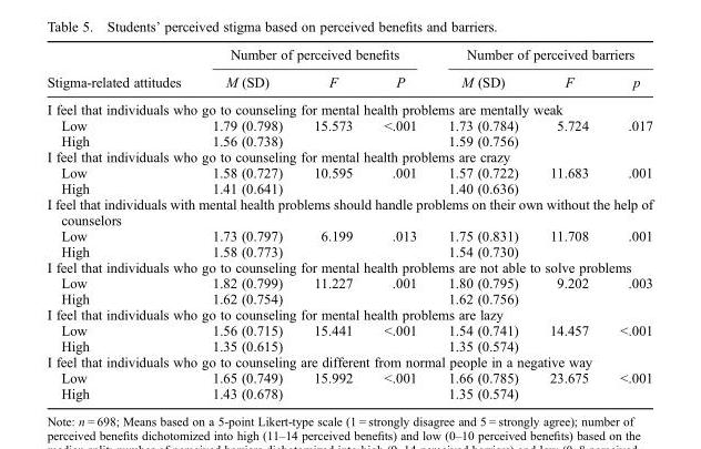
<table><thead><tr><td rowspan="2">Stigma-related attitudes</td><td colspan="3">Number of perceived benefits</td><td colspan="3">Number of perceived barriers</td></tr><tr><td>M (SD)</td><td>F</td><td>P</td><td>M (SD)</td><td>F</td><td>p</td></tr></thead><tbody><tr><td colspan="7">I feel that individuals who go to counseling for mental health problems are mentally weak</td></tr><tr><td>Low</td><td>1.79 (0.798)</td><td rowspan="2">15.573</td><td rowspan="2">&lt;.001</td><td>1.73 (0.784)</td><td rowspan="2">5.724</td><td rowspan="2">.017</td></tr><tr><td>High</td><td>1.56 (0.738)</td><td>1.59 (0.756)</td></tr><tr><td colspan="7">I feel that individuals who go to counseling for mental health problems are crazy</td></tr><tr><td>Low</td><td>1.58 (0.727)</td><td rowspan="2">10.595</td><td rowspan="2">.001</td><td>1.57 (0.722)</td><td rowspan="2">11.683</td><td rowspan="2">.001</td></tr><tr><td>High</td><td>1.41 (0.641)</td><td>1.40 (0.636)</td></tr><tr><td colspan="7">I feel that individuals with mental health problems should handle problems on their own without the help of counselors</td></tr><tr><td>Low</td><td>1.73 (0.797)</td><td rowspan="2">6.199</td><td rowspan="2">.013</td><td>1.75 (0.831)</td><td rowspan="2">11.708</td><td rowspan="2">.001</td></tr><tr><td>High</td><td>1.58 (0.773)</td><td>1.54 (0.730)</td></tr><tr><td colspan="7">I feel that individuals who go to counseling for mental health problems are not able to solve problems</td></tr><tr><td>Low</td><td>1.82 (0.799)</td><td rowspan="2">11.227</td><td rowspan="2">.001</td><td>1.80 (0.795)</td><td rowspan="2">9.202</td><td rowspan="2">.003</td></tr><tr><td>High</td><td>1.62 (0.754)</td><td>1.62 (0.756)</td></tr><tr><td colspan="7">I feel that individuals who go to counseling for mental health problems are lazy</td></tr><tr><td>Low</td><td>1.56 (0.715)</td><td rowspan="2">15.441</td><td rowspan="2">&lt;.001</td><td>1.54 (0.741)</td><td rowspan="2">14.457</td><td rowspan="2">&lt;.001</td></tr><tr><td>High</td><td>1.35 (0.615)</td><td>1.35 (0.574)</td></tr><tr><td colspan="7">I feel that individuals who go to counseling are different from normal people in a negative way</td></tr><tr><td>Low</td><td>1.65 (0.749)</td><td rowspan="2">15.992</td><td rowspan="2">&lt;.001</td><td>1.66 (0.785)</td><td rowspan="2">23.675</td><td rowspan="2">&lt;.001</td></tr><tr><td>High</td><td>1.43 (0.678)</td><td>1.35 (0.574)</td></tr></tbody></table>